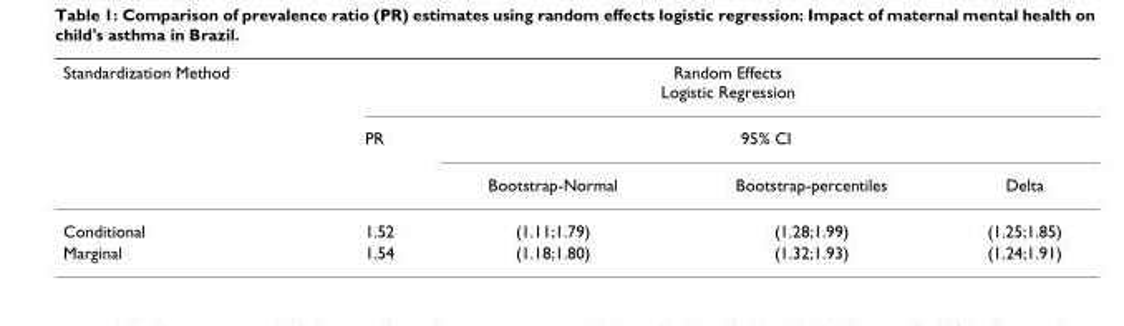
<table><thead><tr><td rowspan="3">Standardization Method</td><td colspan="4">Random Effects Logistic Regression</td></tr><tr><td rowspan="2">PR</td><td colspan="3">95% CI</td></tr><tr><td>Bootstrap-Normal</td><td>Bootstrap-percentiles</td><td>Delta</td></tr></thead><tbody><tr><td>Conditional</td><td>1.52</td><td>(1.11;1.79)</td><td>(1.28;1.99)</td><td>(1.25;1.85)</td></tr><tr><td>Marginal</td><td>1.54</td><td>(1.18;1.80)</td><td>(1.32;1.93)</td><td>(1.24;1.91)</td></tr></tbody></table>